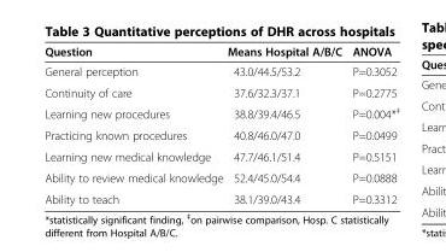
<table><thead><tr><td>Question</td><td>Means Hospital A/B/C</td><td>ANOVA</td></tr></thead><tbody><tr><td>General perception</td><td>43.0/44.5/53.2</td><td>P=0.3052</td></tr><tr><td>Continuity of care</td><td>37.6/32.3/37.1</td><td>P=0.2775</td></tr><tr><td>Learning new procedures</td><td>38.8/39.4/46.5</td><td>P=0.004*<sup>‡</sup></td></tr><tr><td>Practicing known procedures</td><td>40.8/46.0/47.0</td><td>P=0.0499</td></tr><tr><td>Learning new medical knowledge</td><td>47.7/46.1/51.4</td><td>P=0.5151</td></tr><tr><td>Ability to review medical knowledge</td><td>52.4/45.0/54.4</td><td>P=0.0888</td></tr><tr><td>Ability to teach</td><td>38.1/39.0/43.4</td><td>P=0.3312</td></tr></tbody></table>